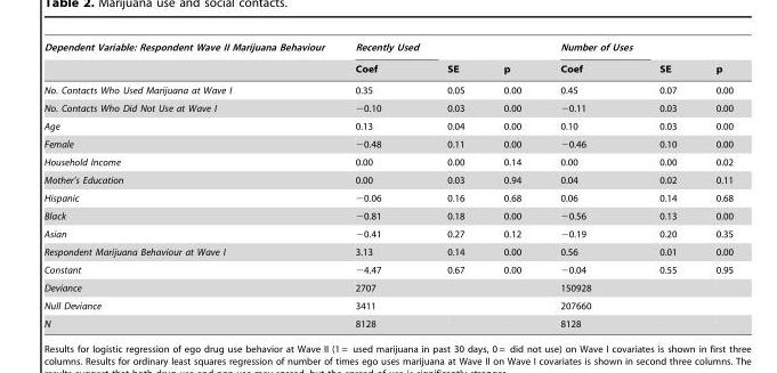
<table><thead><tr><td rowspan="2">Dependent Variable: Respondent Wave II Marijuana Behaviour</td><td rowspan="2">Recently Used Coef</td><td rowspan="2">SE</td><td rowspan="2">p</td><td rowspan="2">Number of Uses Coef</td><td rowspan="2">SE</td><td rowspan="2">p</td></tr><tr></tr></thead><tbody><tr><td>No. Contacts Who Used Marijuana at Wave I</td><td>0.35</td><td>0.05</td><td>0.00</td><td>0.45</td><td>0.07</td><td>0.00</td></tr><tr><td>No. Contacts Who Did Not Use at Wave I</td><td>−0.10</td><td>0.03</td><td>0.00</td><td>−0.11</td><td>0.03</td><td>0.00</td></tr><tr><td>Age</td><td>0.13</td><td>0.04</td><td>0.00</td><td>0.10</td><td>0.03</td><td>0.00</td></tr><tr><td>Female</td><td>−0.48</td><td>0.11</td><td>0.00</td><td>−0.46</td><td>0.10</td><td>0.00</td></tr><tr><td>Household Income</td><td>0.00</td><td>0.00</td><td>0.14</td><td>0.00</td><td>0.00</td><td>0.02</td></tr><tr><td>Mother’s Education</td><td>0.00</td><td>0.03</td><td>0.94</td><td>0.04</td><td>0.02</td><td>0.11</td></tr><tr><td>Hispanic</td><td>−0.06</td><td>0.16</td><td>0.68</td><td>0.06</td><td>0.14</td><td>0.68</td></tr><tr><td>Black</td><td>−0.81</td><td>0.18</td><td>0.00</td><td>−0.56</td><td>0.13</td><td>0.00</td></tr><tr><td>Asian</td><td>−0.41</td><td>0.27</td><td>0.12</td><td>−0.19</td><td>0.20</td><td>0.35</td></tr><tr><td>Respondent Marijuana Behaviour at Wave I</td><td>3.13</td><td>0.14</td><td>0.00</td><td>0.56</td><td>0.01</td><td>0.00</td></tr><tr><td>Constant</td><td>−4.47</td><td>0.67</td><td>0.00</td><td>−0.04</td><td>0.55</td><td>0.95</td></tr><tr><td>Deviance</td><td>2707</td><td></td><td></td><td>150928</td><td></td><td></td></tr><tr><td>Null Deviance</td><td>3411</td><td></td><td></td><td>207660</td><td></td><td></td></tr><tr><td>N</td><td>8128</td><td></td><td></td><td>8128</td><td></td><td></td></tr></tbody></table>